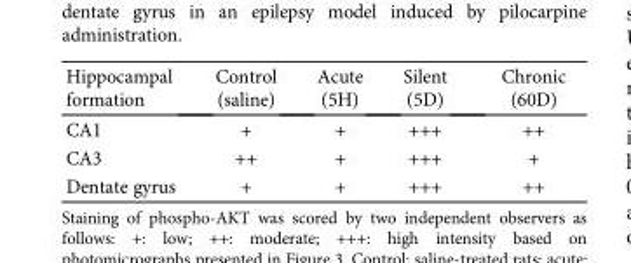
<table><thead><tr><td>Hippocampal formation</td><td>Control (saline)</td><td>Acute (5H)</td><td>Silent (5D)</td><td>Chronic (60D)</td></tr></thead><tbody><tr><td>CA1</td><td>+</td><td>+</td><td>+++</td><td>++</td></tr><tr><td>CA3</td><td>++</td><td>+</td><td>+++</td><td>+</td></tr><tr><td>Dentate gyrus</td><td>+</td><td>+</td><td>+++</td><td>++</td></tr></tbody></table>